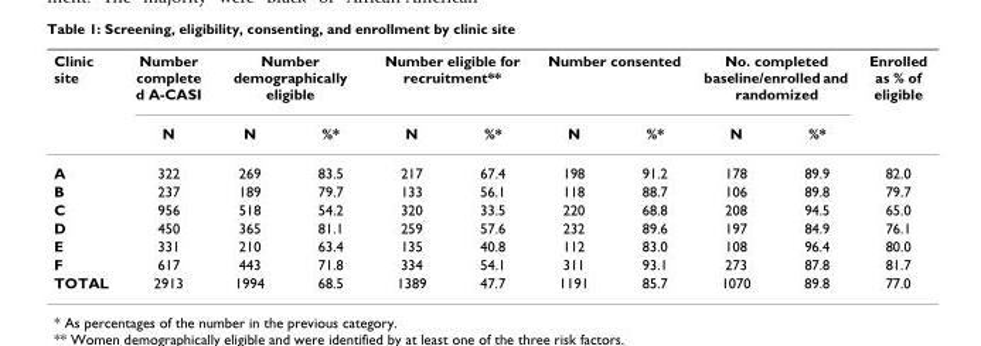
<table><thead><tr><td rowspan="2">Clinic site</td><td rowspan="2">Number complete d A-CASI N</td><td colspan="2">Number demographically eligible</td><td colspan="2">Number eligible for recruitment**</td><td colspan="2">Number consented</td><td colspan="2">No. completed baseline/enrolled and randomized</td><td rowspan="2">Enrolled as % of eligible</td></tr><tr><td>N</td><td>%*</td><td>N</td><td>%*</td><td>N</td><td>%*</td><td>N</td><td>%*</td></tr></thead><tbody><tr><td>A</td><td>322</td><td>269</td><td>83.5</td><td>217</td><td>67.4</td><td>198</td><td>91.2</td><td>178</td><td>89.9</td><td>82.0</td></tr><tr><td>B</td><td>237</td><td>189</td><td>79.7</td><td>133</td><td>56.1</td><td>118</td><td>88.7</td><td>106</td><td>89.8</td><td>79.7</td></tr><tr><td>C</td><td>956</td><td>518</td><td>54.2</td><td>320</td><td>33.5</td><td>220</td><td>68.8</td><td>208</td><td>94.5</td><td>65.0</td></tr><tr><td>D</td><td>450</td><td>365</td><td>81.1</td><td>259</td><td>57.6</td><td>232</td><td>89.6</td><td>197</td><td>84.9</td><td>76.1</td></tr><tr><td>E</td><td>331</td><td>210</td><td>63.4</td><td>135</td><td>40.8</td><td>112</td><td>83.0</td><td>108</td><td>96.4</td><td>80.0</td></tr><tr><td>F</td><td>617</td><td>443</td><td>71.8</td><td>334</td><td>54.1</td><td>311</td><td>93.1</td><td>273</td><td>87.8</td><td>81.7</td></tr><tr><td>TOTAL</td><td>2913</td><td>1994</td><td>68.5</td><td>1389</td><td>47.7</td><td>1191</td><td>85.7</td><td>1070</td><td>89.8</td><td>77.0</td></tr></tbody></table>